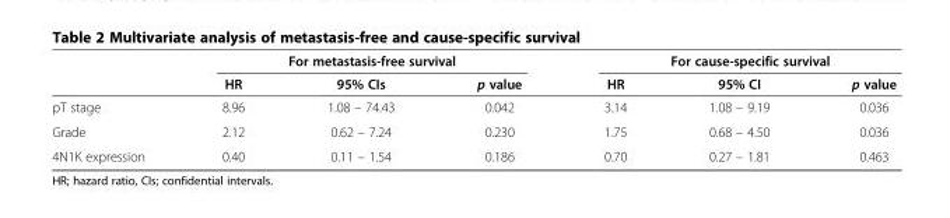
<table><thead><tr><td rowspan="2"></td><td colspan="3">For metastasis-free survival</td><td colspan="3">For cause-specific survival</td></tr><tr><td>HR</td><td>95% CIs</td><td>p value</td><td>HR</td><td>95% CI</td><td>p value</td></tr></thead><tbody><tr><td>pT stage</td><td>8.96</td><td>1.08 – 74.43</td><td>0.042</td><td>3.14</td><td>1.08 – 9.19</td><td>0.036</td></tr><tr><td>Grade</td><td>2.12</td><td>0.62 – 7.24</td><td>0.230</td><td>1.75</td><td>0.68 – 4.50</td><td>0.036</td></tr><tr><td>4N1K expression</td><td>0.40</td><td>0.11 – 1.54</td><td>0.186</td><td>0.70</td><td>0.27 – 1.81</td><td>0.463</td></tr></tbody></table>